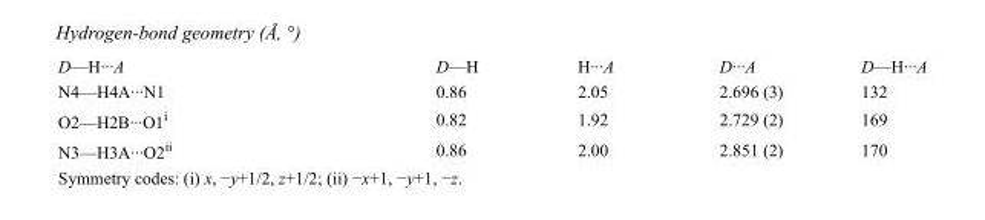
<table><tbody><tr><td>D—H···A</td><td>D—H</td><td>H···A</td><td>D···A</td><td>D—H···A</td></tr><tr><td>N4—H4A···N1</td><td>0.86</td><td>2.05</td><td>2.696 (3)</td><td>132</td></tr><tr><td>O2—H2B···O1<sup>i</sup></td><td>0.82</td><td>1.92</td><td>2.729 (2)</td><td>169</td></tr><tr><td>N3—H3A···O2<sup>ii</sup></td><td>0.86</td><td>2.00</td><td>2.851 (2)</td><td>170</td></tr></tbody></table>